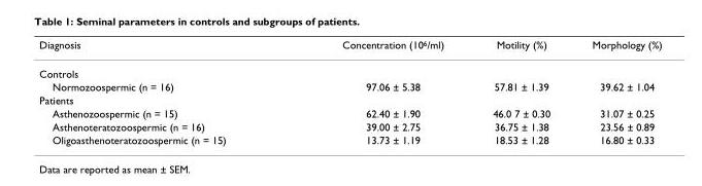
<table><thead><tr><td>Diagnosis</td><td>Concentration (10<sup>6</sup>/ml)</td><td>Motility (%)</td><td>Morphology (%)</td></tr></thead><tbody><tr><td colspan="4">Controls</td></tr><tr><td>Normozoospermic (n = 16)</td><td>97.06 ± 5.38</td><td>57.81 ± 1.39</td><td>39.62 ± 1.04</td></tr><tr><td colspan="4">Patients</td></tr><tr><td>Asthenozoospermic (n = 15)</td><td>62.40 ± 1.90</td><td>46.0 7 ± 0.30</td><td>31.07 ± 0.25</td></tr><tr><td>Asthenoteratozoospermic (n = 16)</td><td>39.00 ± 2.75</td><td>36.75 ± 1.38</td><td>23.56 ± 0.89</td></tr><tr><td>Oligoasthenoteratozoospermic (n = 15)</td><td>13.73 ± 1.19</td><td>18.53 ± 1.28</td><td>16.80 ± 0.33</td></tr></tbody></table>